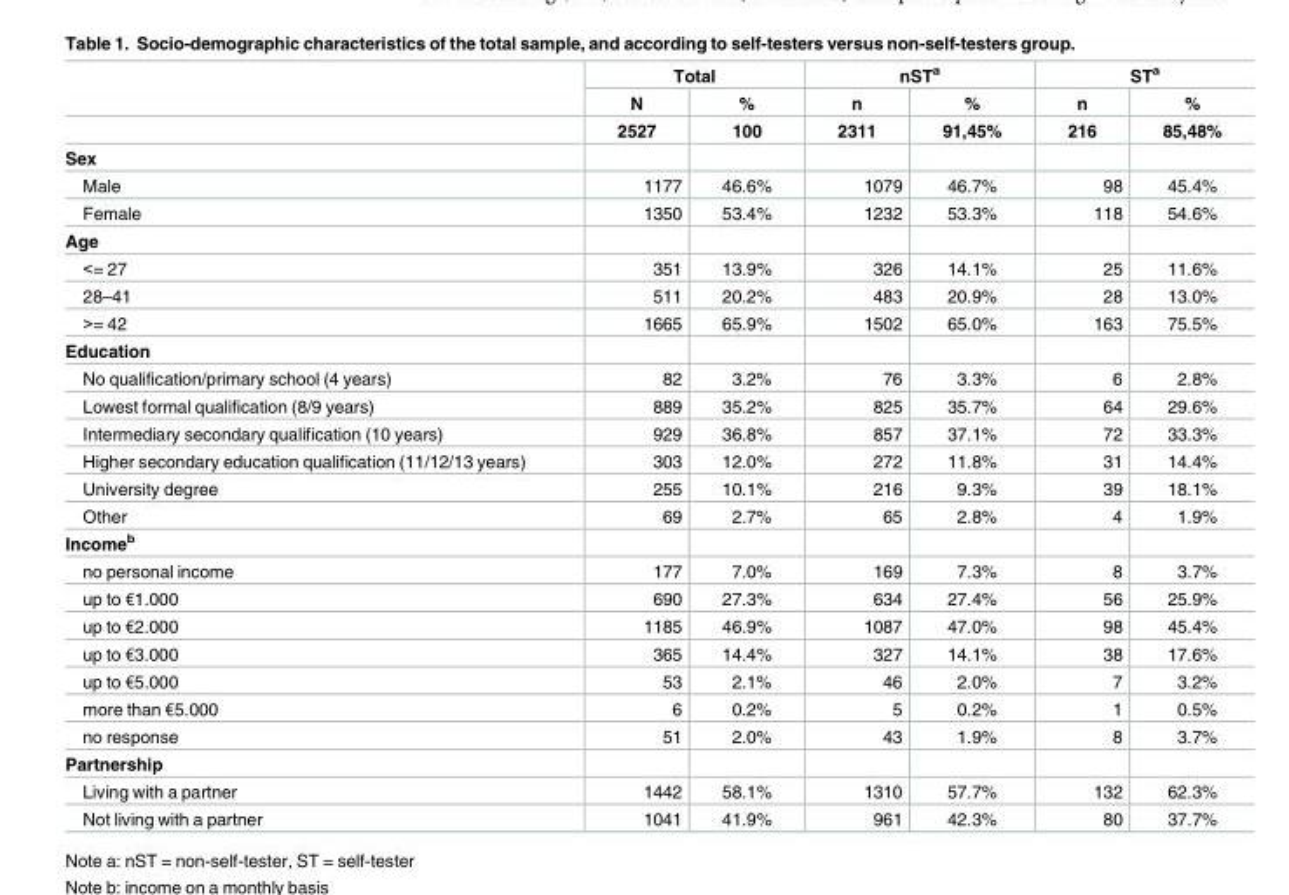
<table><thead><tr><td rowspan="3"></td><td colspan="2">Total</td><td colspan="2">nST<sup>a</sup></td><td colspan="2">ST<sup>a</sup></td></tr><tr><td rowspan="2">N 2527</td><td rowspan="2">% 100</td><td rowspan="2">n 2311</td><td rowspan="2">% 91,45%</td><td rowspan="2">n 216</td><td rowspan="2">% 85,48%</td></tr><tr></tr></thead><tbody><tr><td colspan="7">Sex</td></tr><tr><td>Male</td><td>1177</td><td>46.6%</td><td>1079</td><td>46.7%</td><td>98</td><td>45.4%</td></tr><tr><td>Female</td><td>1350</td><td>53.4%</td><td>1232</td><td>53.3%</td><td>118</td><td>54.6%</td></tr><tr><td colspan="7">Age</td></tr><tr><td>&lt;= 27</td><td>351</td><td>13.9%</td><td>326</td><td>14.1%</td><td>25</td><td>11.6%</td></tr><tr><td>28–41</td><td>511</td><td>20.2%</td><td>483</td><td>20.9%</td><td>28</td><td>13.0%</td></tr><tr><td>&gt;= 42</td><td>1665</td><td>65.9%</td><td>1502</td><td>65.0%</td><td>163</td><td>75.5%</td></tr><tr><td colspan="7">Education</td></tr><tr><td>No qualification/primary school (4 years)</td><td>82</td><td>3.2%</td><td>76</td><td>3.3%</td><td>6</td><td>2.8%</td></tr><tr><td>Lowest formal qualification (8/9 years)</td><td>889</td><td>35.2%</td><td>825</td><td>35.7%</td><td>64</td><td>29.6%</td></tr><tr><td>Intermediary secondary qualification (10 years)</td><td>929</td><td>36.8%</td><td>857</td><td>37.1%</td><td>72</td><td>33.3%</td></tr><tr><td>Higher secondary education qualification (11/12/13 years)</td><td>303</td><td>12.0%</td><td>272</td><td>11.8%</td><td>31</td><td>14.4%</td></tr><tr><td>University degree</td><td>255</td><td>10.1%</td><td>216</td><td>9.3%</td><td>39</td><td>18.1%</td></tr><tr><td>Other</td><td>69</td><td>2.7%</td><td>65</td><td>2.8%</td><td>4</td><td>1.9%</td></tr><tr><td colspan="7">Income<sup>b</sup></td></tr><tr><td>no personal income</td><td>177</td><td>7.0%</td><td>169</td><td>7.3%</td><td>8</td><td>3.7%</td></tr><tr><td>up to €1.000</td><td>690</td><td>27.3%</td><td>634</td><td>27.4%</td><td>56</td><td>25.9%</td></tr><tr><td>up to €2.000</td><td>1185</td><td>46.9%</td><td>1087</td><td>47.0%</td><td>98</td><td>45.4%</td></tr><tr><td>up to €3.000</td><td>365</td><td>14.4%</td><td>327</td><td>14.1%</td><td>38</td><td>17.6%</td></tr><tr><td>up to €5.000</td><td>53</td><td>2.1%</td><td>46</td><td>2.0%</td><td>7</td><td>3.2%</td></tr><tr><td>more than €5.000</td><td>6</td><td>0.2%</td><td>5</td><td>0.2%</td><td>1</td><td>0.5%</td></tr><tr><td>no response</td><td>51</td><td>2.0%</td><td>43</td><td>1.9%</td><td>8</td><td>3.7%</td></tr><tr><td colspan="7">Partnership</td></tr><tr><td>Living with a partner</td><td>1442</td><td>58.1%</td><td>1310</td><td>57.7%</td><td>132</td><td>62.3%</td></tr><tr><td>Not living with a partner</td><td>1041</td><td>41.9%</td><td>961</td><td>42.3%</td><td>80</td><td>37.7%</td></tr></tbody></table>